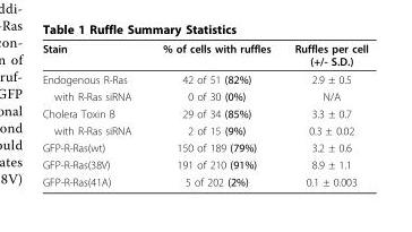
<table><thead><tr><td>Stain</td><td>% of cells with ruffles</td><td>Ruffles per cell (+/- S.D.)</td></tr></thead><tbody><tr><td>Endogenous R-Ras</td><td>42 of 51 (82%)</td><td>2.9 ± 0.5</td></tr><tr><td>with R-Ras siRNA</td><td>0 of 30 (0%)</td><td>N/A</td></tr><tr><td>Cholera Toxin B</td><td>29 of 34 (85%)</td><td>3.3 ± 0.7</td></tr><tr><td>with R-Ras siRNA</td><td>2 of 15 (9%)</td><td>0.3 ± 0.02</td></tr><tr><td>GFP-R-Ras(wt)</td><td>150 of 189 (79%)</td><td>3.2 ± 0.6</td></tr><tr><td>GFP-R-Ras(38V)</td><td>191 of 210 (91%)</td><td>8.9 ± 1.1</td></tr><tr><td>GFP-R-Ras(41A)</td><td>5 of 202 (2%)</td><td>0.1 ± 0.003</td></tr></tbody></table>